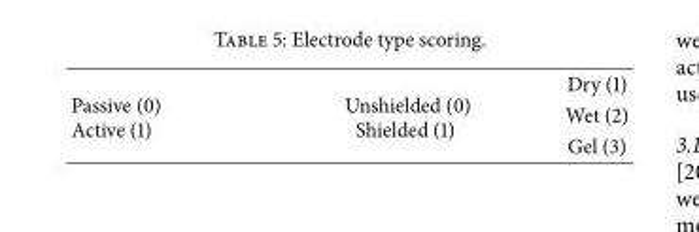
<table><tbody><tr><td rowspan="3">Passive (0) Active (1)</td><td rowspan="3">Unshielded (0) Shielded (1)</td><td>Dry (1)</td></tr><tr><td>Wet (2)</td></tr><tr><td>Gel (3)</td></tr></tbody></table>